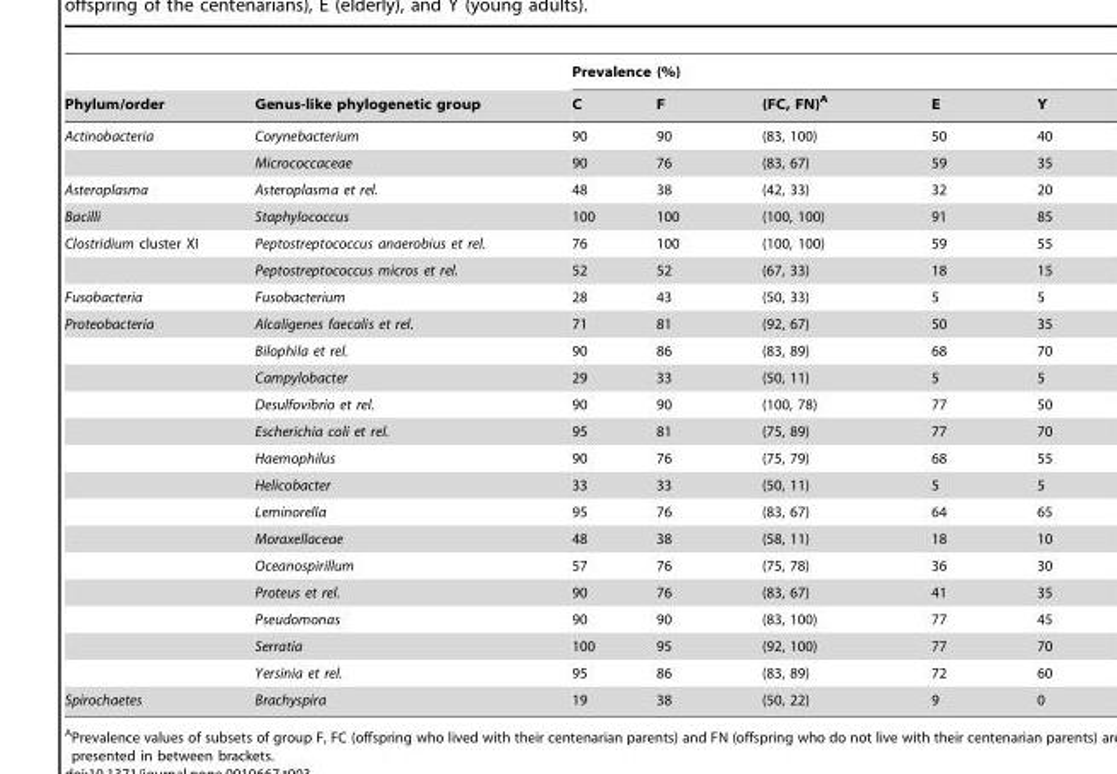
<table><thead><tr><td rowspan="2">Phylum/order</td><td rowspan="2">Genus-like phylogenetic group</td><td colspan="5">Prevalence (%)</td></tr><tr><td>C</td><td>F</td><td>(FC, FN)<sup>A</sup></td><td>E</td><td>Y</td></tr></thead><tbody><tr><td rowspan="2">Actinobacteria</td><td>Corynebacterium</td><td>90</td><td>90</td><td>(83, 100)</td><td>50</td><td>40</td></tr><tr><td>Micrococcaceae</td><td>90</td><td>76</td><td>(83, 67)</td><td>59</td><td>35</td></tr><tr><td>Asteroplasma</td><td>Asteroplasma et rel.</td><td>48</td><td>38</td><td>(42, 33)</td><td>32</td><td>20</td></tr><tr><td>Bacilli</td><td>Staphylococcus</td><td>100</td><td>100</td><td>(100, 100)</td><td>91</td><td>85</td></tr><tr><td rowspan="2">Clostridium cluster XI</td><td>Peptostreptococcus anaerobius et rel.</td><td>76</td><td>100</td><td>(100, 100)</td><td>59</td><td>55</td></tr><tr><td>Peptostreptococcus micros et rel.</td><td>52</td><td>52</td><td>(67, 33)</td><td>18</td><td>15</td></tr><tr><td>Fusobacteria</td><td>Fusobacterium</td><td>28</td><td>43</td><td>(50, 33)</td><td>5</td><td>5</td></tr><tr><td rowspan="14">Proteobacteria</td><td>Alcaligenes faecalis et rel.</td><td>71</td><td>81</td><td>(92, 67)</td><td>50</td><td>35</td></tr><tr><td>Bilophila et rel.</td><td>90</td><td>86</td><td>(83, 89)</td><td>68</td><td>70</td></tr><tr><td>Campylobacter</td><td>29</td><td>33</td><td>(50, 11)</td><td>5</td><td>5</td></tr><tr><td>Desulfovibrio et rel.</td><td>90</td><td>90</td><td>(100, 78)</td><td>77</td><td>50</td></tr><tr><td>Escherichia coli et rel.</td><td>95</td><td>81</td><td>(75, 89)</td><td>77</td><td>70</td></tr><tr><td>Haemophilus</td><td>90</td><td>76</td><td>(75, 79)</td><td>68</td><td>55</td></tr><tr><td>Helicobacter</td><td>33</td><td>33</td><td>(50, 11)</td><td>5</td><td>5</td></tr><tr><td>Leminorella</td><td>95</td><td>76</td><td>(83, 67)</td><td>64</td><td>65</td></tr><tr><td>Moraxellaceae</td><td>48</td><td>38</td><td>(58, 11)</td><td>18</td><td>10</td></tr><tr><td>Oceanospirillum</td><td>57</td><td>76</td><td>(75, 78)</td><td>36</td><td>30</td></tr><tr><td>Proteus et rel.</td><td>90</td><td>76</td><td>(83, 67)</td><td>41</td><td>35</td></tr><tr><td>Pseudomonas</td><td>90</td><td>90</td><td>(83, 100)</td><td>77</td><td>45</td></tr><tr><td>Serratia</td><td>100</td><td>95</td><td>(92, 100)</td><td>77</td><td>70</td></tr><tr><td>Yersinia et rel.</td><td>95</td><td>86</td><td>(83, 89)</td><td>72</td><td>60</td></tr><tr><td>Spirochaetes</td><td>Brachyspira</td><td>19</td><td>38</td><td>(50, 22)</td><td>9</td><td>0</td></tr></tbody></table>